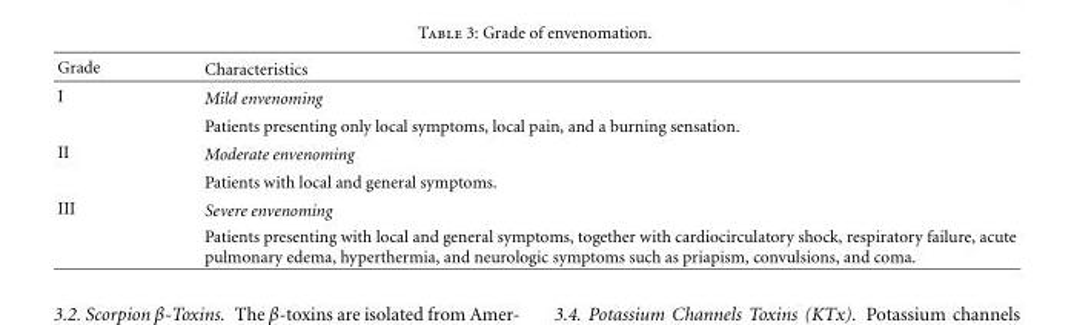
<table><thead><tr><td>Grade</td><td>Characteristics</td></tr></thead><tbody><tr><td rowspan="2">I</td><td>Mild envenoming</td></tr><tr><td>Patients presenting only local symptoms, local pain, and a burning sensation.</td></tr><tr><td rowspan="2">II</td><td>Moderate envenoming</td></tr><tr><td>Patients with local and general symptoms.</td></tr><tr><td rowspan="2">III</td><td>Severe envenoming</td></tr><tr><td>Patients presenting with local and general symptoms, together with cardiocirculatory shock, respiratory failure, acute pulmonary edema, hyperthermia, and neurologic symptoms such as priapism, convulsions, and coma.</td></tr></tbody></table>